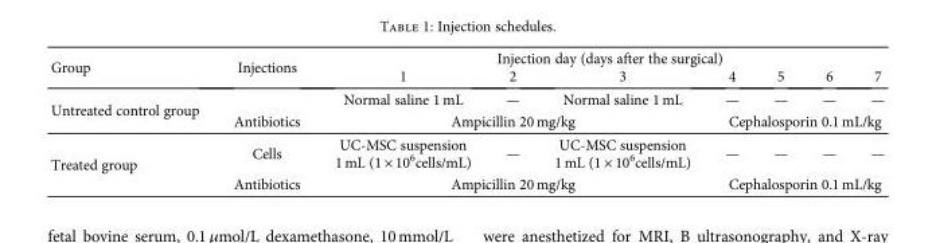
<table><thead><tr><td rowspan="2">Group</td><td rowspan="2">Injections</td><td colspan="7">Injection day (days after the surgical)</td></tr><tr><td>1</td><td>2</td><td>3</td><td>4</td><td>5</td><td>6</td><td>7</td></tr></thead><tbody><tr><td rowspan="2">Untreated control group</td><td></td><td>Normal saline 1 mL</td><td>—</td><td>Normal saline 1 mL</td><td>—</td><td>—</td><td>—</td><td>—</td></tr><tr><td>Antibiotics</td><td colspan="3">Ampicillin 20 mg/kg</td><td colspan="4">Cephalosporin 0.1 mL/kg</td></tr><tr><td rowspan="2">Treated group</td><td>Cells</td><td>UC-MSC suspension 1 mL (1 × 10<sup>6</sup>cells/mL)</td><td>—</td><td>UC-MSC suspension 1 mL (1 × 10<sup>6</sup>cells/mL)</td><td>—</td><td>—</td><td>—</td><td>—</td></tr><tr><td>Antibiotics</td><td colspan="3">Ampicillin 20 mg/kg</td><td colspan="4">Cephalosporin 0.1 mL/kg</td></tr></tbody></table>